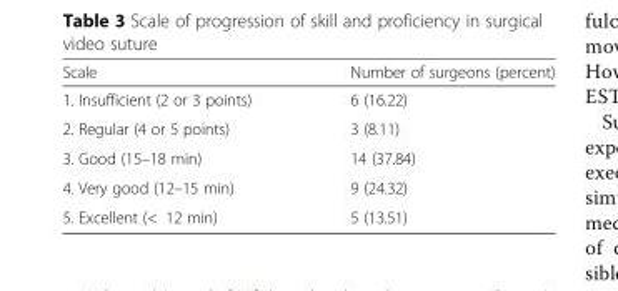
<table><thead><tr><td>Scale</td><td>Number of surgeons (percent)</td></tr></thead><tbody><tr><td>1. Insufficient (2 or 3 points)</td><td>6 (16.22)</td></tr><tr><td>2. Regular (4 or 5 points)</td><td>3 (8.11)</td></tr><tr><td>3. Good (15–18 min)</td><td>14 (37.84)</td></tr><tr><td>4. Very good (12–15 min)</td><td>9 (24.32)</td></tr><tr><td>5. Excellent (&lt; 12 min)</td><td>5 (13.51)</td></tr></tbody></table>